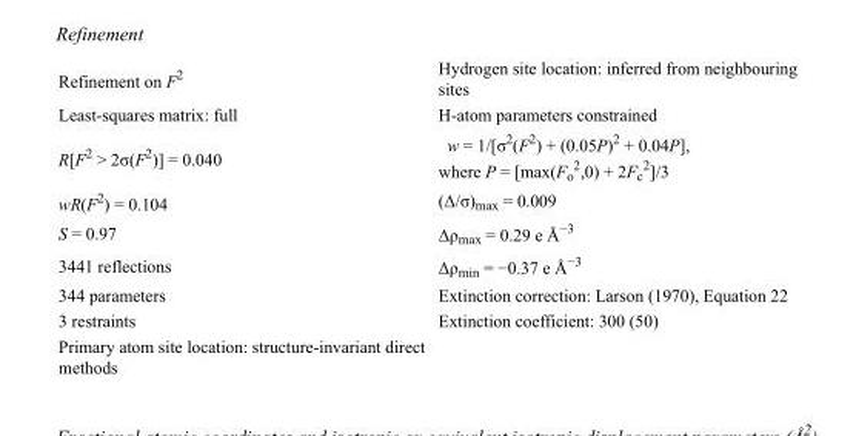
<table><tbody><tr><td>Refinement on F<sup>2</sup></td><td>Hydrogen site location: inferred from neighbouring sites</td></tr><tr><td>Least-squares matrix: full</td><td>H-atom parameters constrained</td></tr><tr><td>R[F<sup>2</sup> &gt; 2σ(F<sup>2</sup>)] = 0.040</td><td>w = 1/[σ<sup>2</sup>(F<sup>2</sup>) + (0.05P)<sup>2</sup> + 0.04P], where P = [max(F<sub>o</sub> <sup>2</sup>,0) + 2F<sub>c</sub> <sup>2</sup>]/3</td></tr><tr><td>wR(F<sup>2</sup>) = 0.104</td><td>(Δ/σ)<sub>max</sub> = 0.009</td></tr><tr><td>S = 0.97</td><td>Δρ<sub>max</sub> = 0.29 e Å<sup>−3</sup></td></tr><tr><td>3441 reflections</td><td>Δρ<sub>min</sub> = −0.37 e Å<sup>−3</sup></td></tr><tr><td>344 parameters</td><td>Extinction correction: Larson (1970), Equation 22</td></tr><tr><td>3 restraints</td><td>Extinction coefficient: 300 (50)</td></tr><tr><td>Primary atom site location: structure-invariant direct methods</td><td></td></tr></tbody></table>